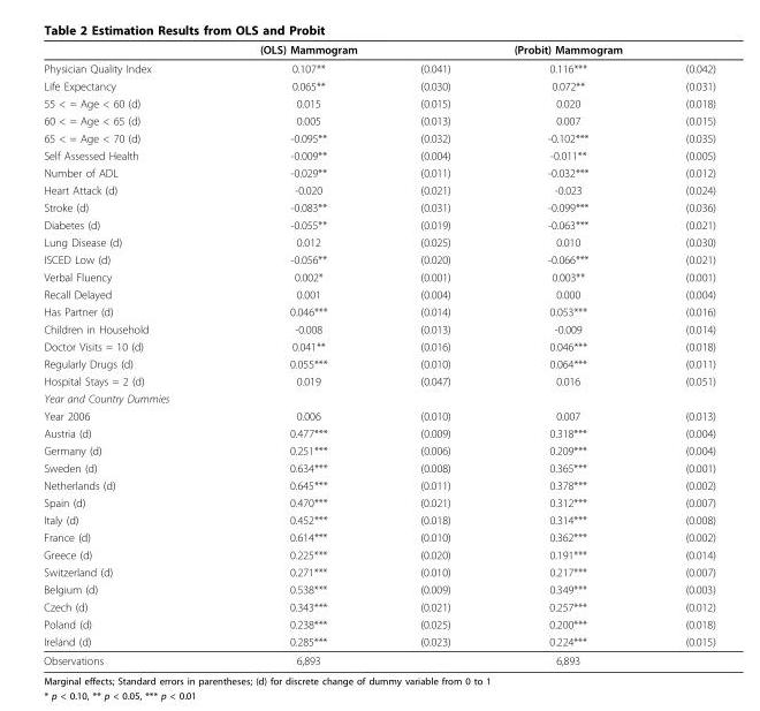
<table><thead><tr><td></td><td>(OLS) Mammogram</td><td></td><td>(Probit) Mammogram</td><td></td></tr></thead><tbody><tr><td>Physician Quality Index</td><td>0.107**</td><td>(0.041)</td><td>0.116***</td><td>(0.042)</td></tr><tr><td>Life Expectancy</td><td>0.065**</td><td>(0.030)</td><td>0.072**</td><td>(0.031)</td></tr><tr><td>55 &lt; = Age &lt; 60 (d)</td><td>0.015</td><td>(0.015)</td><td>0.020</td><td>(0.018)</td></tr><tr><td>60 &lt; = Age &lt; 65 (d)</td><td>0.005</td><td>(0.013)</td><td>0.007</td><td>(0.015)</td></tr><tr><td>65 &lt; = Age &lt; 70 (d)</td><td>-0.095**</td><td>(0.032)</td><td>-0.102***</td><td>(0.035)</td></tr><tr><td>Self Assessed Health</td><td>-0.009**</td><td>(0.004)</td><td>-0.011**</td><td>(0.005)</td></tr><tr><td>Number of ADL</td><td>-0.029**</td><td>(0.011)</td><td>-0.032***</td><td>(0.012)</td></tr><tr><td>Heart Attack (d)</td><td>-0.020</td><td>(0.021)</td><td>-0.023</td><td>(0.024)</td></tr><tr><td>Stroke (d)</td><td>-0.083**</td><td>(0.031)</td><td>-0.099***</td><td>(0.036)</td></tr><tr><td>Diabetes (d)</td><td>-0.055**</td><td>(0.019)</td><td>-0.063***</td><td>(0.021)</td></tr><tr><td>Lung Disease (d)</td><td>0.012</td><td>(0.025)</td><td>0.010</td><td>(0.030)</td></tr><tr><td>ISCED Low (d)</td><td>-0.056**</td><td>(0.020)</td><td>-0.066***</td><td>(0.021)</td></tr><tr><td>Verbal Fluency</td><td>0.002*</td><td>(0.001)</td><td>0.003**</td><td>(0.001)</td></tr><tr><td>Recall Delayed</td><td>0.001</td><td>(0.004)</td><td>0.000</td><td>(0.004)</td></tr><tr><td>Has Partner (d)</td><td>0.046***</td><td>(0.014)</td><td>0.053***</td><td>(0.016)</td></tr><tr><td>Children in Household</td><td>-0.008</td><td>(0.013)</td><td>-0.009</td><td>(0.014)</td></tr><tr><td>Doctor Visits = 10 (d)</td><td>0.041**</td><td>(0.016)</td><td>0.046***</td><td>(0.018)</td></tr><tr><td>Regularly Drugs (d)</td><td>0.055***</td><td>(0.010)</td><td>0.064***</td><td>(0.011)</td></tr><tr><td>Hospital Stays = 2 (d)</td><td>0.019</td><td>(0.047)</td><td>0.016</td><td>(0.051)</td></tr><tr><td colspan="5">Year and Country Dummies</td></tr><tr><td>Year 2006</td><td>0.006</td><td>(0.010)</td><td>0.007</td><td>(0.013)</td></tr><tr><td>Austria (d)</td><td>0.477***</td><td>(0.009)</td><td>0.318***</td><td>(0.004)</td></tr><tr><td>Germany (d)</td><td>0.251***</td><td>(0.006)</td><td>0.209***</td><td>(0.004)</td></tr><tr><td>Sweden (d)</td><td>0.634***</td><td>(0.008)</td><td>0.365***</td><td>(0.001)</td></tr><tr><td>Netherlands (d)</td><td>0.645***</td><td>(0.011)</td><td>0.378***</td><td>(0.002)</td></tr><tr><td>Spain (d)</td><td>0.470***</td><td>(0.021)</td><td>0.312***</td><td>(0.007)</td></tr><tr><td>Italy (d)</td><td>0.452***</td><td>(0.018)</td><td>0.314***</td><td>(0.008)</td></tr><tr><td>France (d)</td><td>0.614***</td><td>(0.010)</td><td>0.362***</td><td>(0.002)</td></tr><tr><td>Greece (d)</td><td>0.225***</td><td>(0.020)</td><td>0.191***</td><td>(0.014)</td></tr><tr><td>Switzerland (d)</td><td>0.271***</td><td>(0.010)</td><td>0.217***</td><td>(0.007)</td></tr><tr><td>Belgium (d)</td><td>0.538***</td><td>(0.009)</td><td>0.349***</td><td>(0.003)</td></tr><tr><td>Czech (d)</td><td>0.343***</td><td>(0.021)</td><td>0.257***</td><td>(0.012)</td></tr><tr><td>Poland (d)</td><td>0.238***</td><td>(0.025)</td><td>0.200***</td><td>(0.018)</td></tr><tr><td>Ireland (d)</td><td>0.285***</td><td>(0.023)</td><td>0.224***</td><td>(0.015)</td></tr><tr><td>Observations</td><td>6,893</td><td></td><td>6,893</td><td></td></tr></tbody></table>